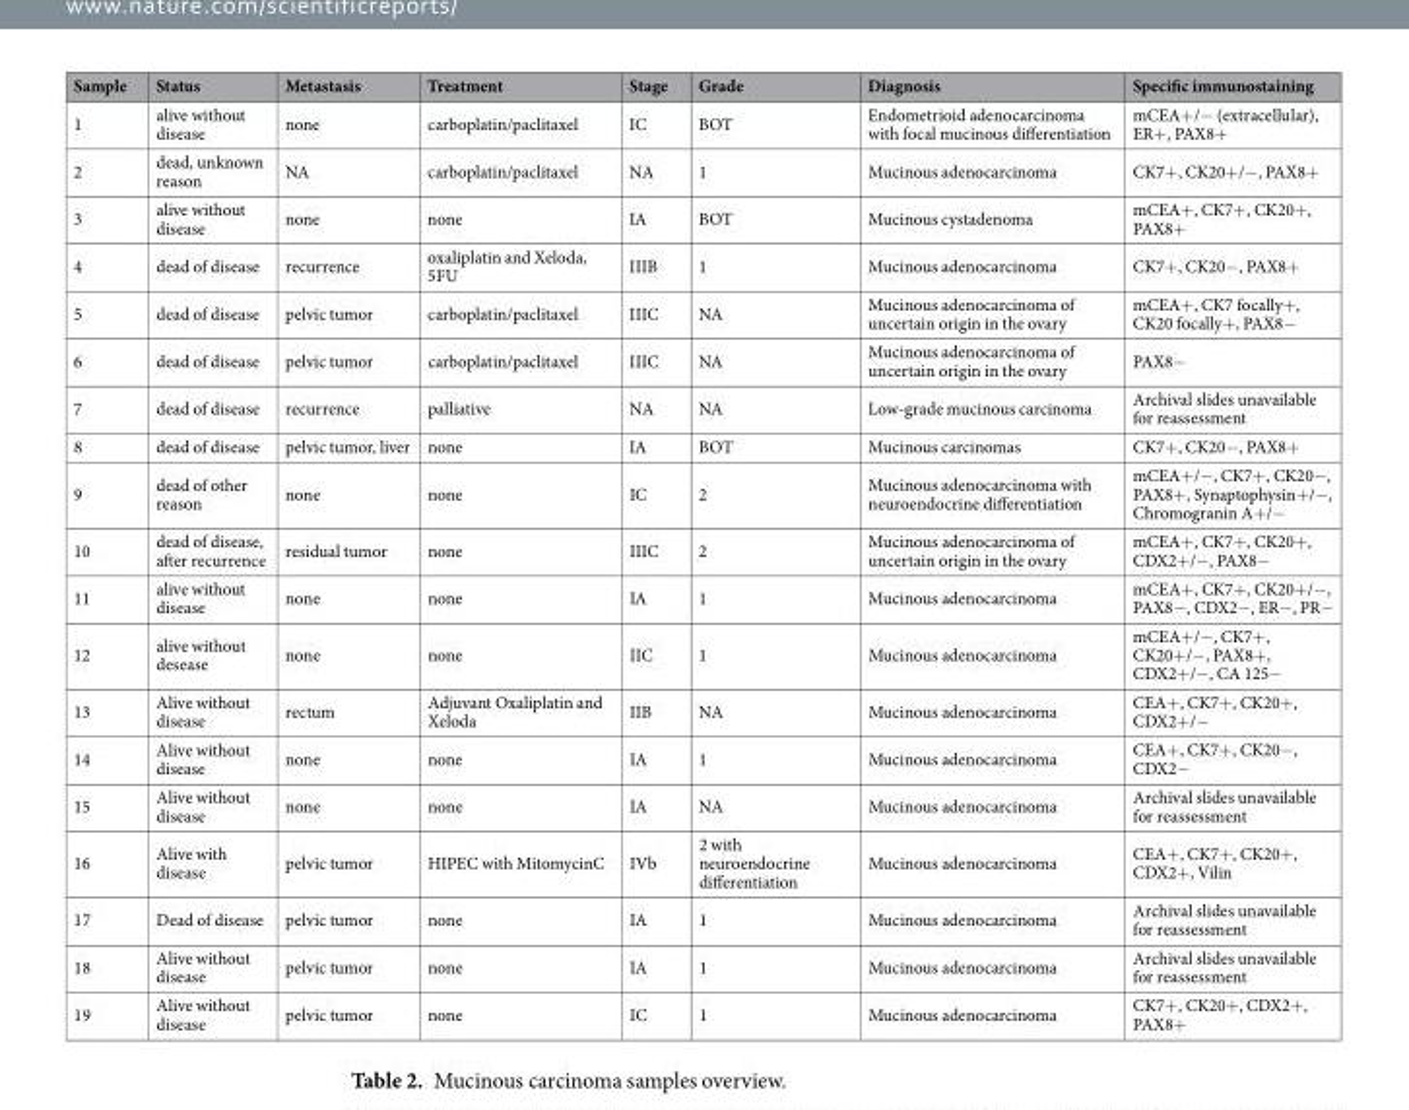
<table><thead><tr><td>Sample</td><td>Status</td><td>Metastasis</td><td>Treatment</td><td>Stage</td><td>Grade</td><td>Diagnosis</td><td>Specific immunostaining</td></tr></thead><tbody><tr><td>1</td><td>alive without disease</td><td>none</td><td>carboplatin/paclitaxel</td><td>IC</td><td>BOT</td><td>Endometrioid adenocarcinoma with focal mucinous differentiation</td><td>mCEA+/− (extracellular), ER+, PAX8+</td></tr><tr><td>2</td><td>dead, unknown reason</td><td>NA</td><td>carboplatin/paclitaxel</td><td>NA</td><td>1</td><td>Mucinous adenocarcinoma</td><td>CK7+, CK20+/−, PAX8+</td></tr><tr><td>3</td><td>alive without disease</td><td>none</td><td>none</td><td>IA</td><td>BOT</td><td>Mucinous cystadenoma</td><td>mCEA+, CK7+, CK20+, PAX8+</td></tr><tr><td>4</td><td>dead of disease</td><td>recurrence</td><td>oxaliplatin and Xeloda, 5FU</td><td>IIIB</td><td>1</td><td>Mucinous adenocarcinoma</td><td>CK7+, CK20−, PAX8+</td></tr><tr><td>5</td><td>dead of disease</td><td>pelvic tumor</td><td>carboplatin/paclitaxel</td><td>IIIC</td><td>NA</td><td>Mucinous adenocarcinoma of uncertain origin in the ovary</td><td>mCEA+, CK7 focally+, CK20 focally+, PAX8−</td></tr><tr><td>6</td><td>dead of disease</td><td>pelvic tumor</td><td>carboplatin/paclitaxel</td><td>IIIC</td><td>NA</td><td>Mucinous adenocarcinoma of uncertain origin in the ovary</td><td>PAX8−</td></tr><tr><td>7</td><td>dead of disease</td><td>recurrence</td><td>palliative</td><td>NA</td><td>NA</td><td>Low-grade mucinous carcinoma</td><td>Archival slides unavailable for reassessment</td></tr><tr><td>8</td><td>dead of disease</td><td>pelvic tumor, liver</td><td>none</td><td>IA</td><td>BOT</td><td>Mucinous carcinomas</td><td>CK7+, CK20−, PAX8+</td></tr><tr><td>9</td><td>dead of other reason</td><td>none</td><td>none</td><td>IC</td><td>2</td><td>Mucinous adenocarcinoma with neuroendocrine differentiation</td><td>mCEA+/−, CK7+, CK20−, PAX8+, Synaptophysin+/−, Chromogranin A+/−</td></tr><tr><td>10</td><td>dead of disease, after recurrence</td><td>residual tumor</td><td>none</td><td>IIIC</td><td>2</td><td>Mucinous adenocarcinoma of uncertain origin in the ovary</td><td>mCEA+, CK7+, CK20+, CDX2+/−, PAX8−</td></tr><tr><td>11</td><td>alive without disease</td><td>none</td><td>none</td><td>IA</td><td>1</td><td>Mucinous adenocarcinoma</td><td>mCEA+, CK7+, CK20+/−, PAX8−, CDX2−, ER−, PR−</td></tr><tr><td>12</td><td>alive without desease</td><td>none</td><td>none</td><td>IIC</td><td>1</td><td>Mucinous adenocarcinoma</td><td>mCEA+/−, CK7+, CK20+/−, PAX8+, CDX2+/−, CA 125−</td></tr><tr><td>13</td><td>Alive without disease</td><td>rectum</td><td>Adjuvant Oxaliplatin and Xeloda</td><td>IIB</td><td>NA</td><td>Mucinous adenocarcinoma</td><td>CEA+, CK7+, CK20+, CDX2+/−</td></tr><tr><td>14</td><td>Alive without disease</td><td>none</td><td>none</td><td>IA</td><td>1</td><td>Mucinous adenocarcinoma</td><td>CEA+, CK7+, CK20−, CDX2−</td></tr><tr><td>15</td><td>Alive without disease</td><td>none</td><td>none</td><td>IA</td><td>NA</td><td>Mucinous adenocarcinoma</td><td>Archival slides unavailable for reassessment</td></tr><tr><td>16</td><td>Alive with disease</td><td>pelvic tumor</td><td>HIPEC with MitomycinC</td><td>IVb</td><td>2 with neuroendocrine differentiation</td><td>Mucinous adenocarcinoma</td><td>CEA+, CK7+, CK20+, CDX2+, Vilin</td></tr><tr><td>17</td><td>Dead of disease</td><td>pelvic tumor</td><td>none</td><td>IA</td><td>1</td><td>Mucinous adenocarcinoma</td><td>Archival slides unavailable for reassessment</td></tr><tr><td>18</td><td>Alive without disease</td><td>pelvic tumor</td><td>none</td><td>IA</td><td>1</td><td>Mucinous adenocarcinoma</td><td>Archival slides unavailable for reassessment</td></tr><tr><td>19</td><td>Alive without disease</td><td>pelvic tumor</td><td>none</td><td>IC</td><td>1</td><td>Mucinous adenocarcinoma</td><td>CK7+, CK20+, CDX2+, PAX8+</td></tr></tbody></table>